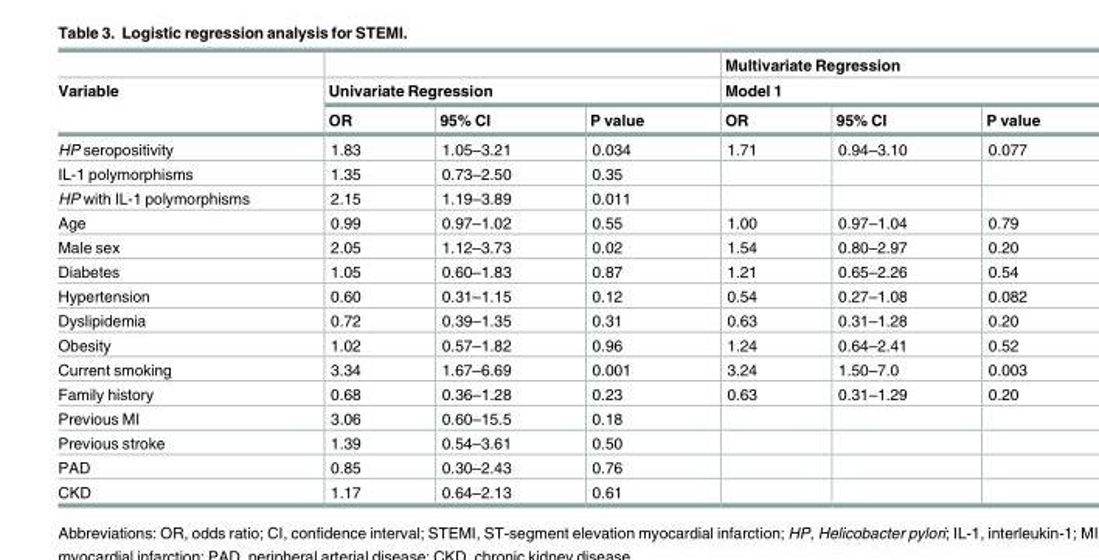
<table><thead><tr><td rowspan="3">Variable</td><td></td><td></td><td></td><td rowspan="2" colspan="3">Multivariate Regression Model 1</td></tr><tr><td colspan="3">Univariate Regression</td></tr><tr><td>OR</td><td>95% CI</td><td>P value</td><td>OR</td><td>95% CI</td><td>P value</td></tr></thead><tbody><tr><td>HP seropositivity</td><td>1.83</td><td>1.05–3.21</td><td>0.034</td><td>1.71</td><td>0.94–3.10</td><td>0.077</td></tr><tr><td>IL-1 polymorphisms</td><td>1.35</td><td>0.73–2.50</td><td>0.35</td><td></td><td></td><td></td></tr><tr><td>HP with IL-1 polymorphisms</td><td>2.15</td><td>1.19–3.89</td><td>0.011</td><td></td><td></td><td></td></tr><tr><td>Age</td><td>0.99</td><td>0.97–1.02</td><td>0.55</td><td>1.00</td><td>0.97–1.04</td><td>0.79</td></tr><tr><td>Male sex</td><td>2.05</td><td>1.12–3.73</td><td>0.02</td><td>1.54</td><td>0.80–2.97</td><td>0.20</td></tr><tr><td>Diabetes</td><td>1.05</td><td>0.60–1.83</td><td>0.87</td><td>1.21</td><td>0.65–2.26</td><td>0.54</td></tr><tr><td>Hypertension</td><td>0.60</td><td>0.31–1.15</td><td>0.12</td><td>0.54</td><td>0.27–1.08</td><td>0.082</td></tr><tr><td>Dyslipidemia</td><td>0.72</td><td>0.39–1.35</td><td>0.31</td><td>0.63</td><td>0.31–1.28</td><td>0.20</td></tr><tr><td>Obesity</td><td>1.02</td><td>0.57–1.82</td><td>0.96</td><td>1.24</td><td>0.64–2.41</td><td>0.52</td></tr><tr><td>Current smoking</td><td>3.34</td><td>1.67–6.69</td><td>0.001</td><td>3.24</td><td>1.50–7.0</td><td>0.003</td></tr><tr><td>Family history</td><td>0.68</td><td>0.36–1.28</td><td>0.23</td><td>0.63</td><td>0.31–1.29</td><td>0.20</td></tr><tr><td>Previous MI</td><td>3.06</td><td>0.60–15.5</td><td>0.18</td><td></td><td></td><td></td></tr><tr><td>Previous stroke</td><td>1.39</td><td>0.54–3.61</td><td>0.50</td><td></td><td></td><td></td></tr><tr><td>PAD</td><td>0.85</td><td>0.30–2.43</td><td>0.76</td><td></td><td></td><td></td></tr><tr><td>CKD</td><td>1.17</td><td>0.64–2.13</td><td>0.61</td><td></td><td></td><td></td></tr></tbody></table>